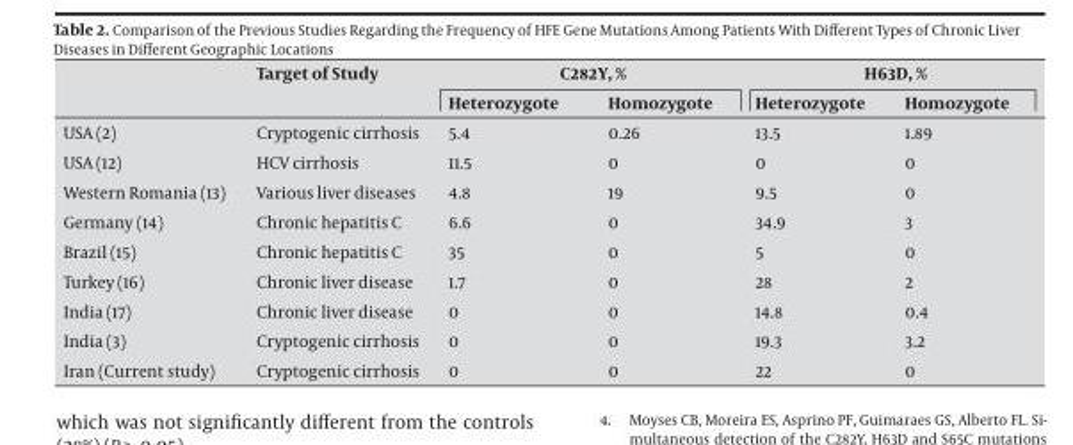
<table><thead><tr><td rowspan="2"></td><td rowspan="2">Target of Study</td><td colspan="2">C282Y, %</td><td colspan="2">H63D, %</td></tr><tr><td>Heterozygote</td><td>Homozygote</td><td>Heterozygote</td><td>Homozygote</td></tr></thead><tbody><tr><td>USA (2)</td><td>Cryptogenic cirrhosis</td><td>5.4</td><td>0.26</td><td>13.5</td><td>1.89</td></tr><tr><td>USA (12)</td><td>HCV cirrhosis</td><td>11.5</td><td>0</td><td>0</td><td>0</td></tr><tr><td>Western Romania (13)</td><td>Various liver diseases</td><td>4.8</td><td>19</td><td>9.5</td><td>0</td></tr><tr><td>Germany (14)</td><td>Chronic hepatitis C</td><td>6.6</td><td>0</td><td>34.9</td><td>3</td></tr><tr><td>Brazil (15)</td><td>Chronic hepatitis C</td><td>35</td><td>0</td><td>5</td><td>0</td></tr><tr><td>Turkey (16)</td><td>Chronic liver disease</td><td>1.7</td><td>0</td><td>28</td><td>2</td></tr><tr><td>India (17)</td><td>Chronic liver disease</td><td>0</td><td>0</td><td>14.8</td><td>0.4</td></tr><tr><td>India (3)</td><td>Cryptogenic cirrhosis</td><td>0</td><td>0</td><td>19.3</td><td>3.2</td></tr><tr><td>Iran (Current study)</td><td>Cryptogenic cirrhosis</td><td>0</td><td>0</td><td>22</td><td>0</td></tr></tbody></table>